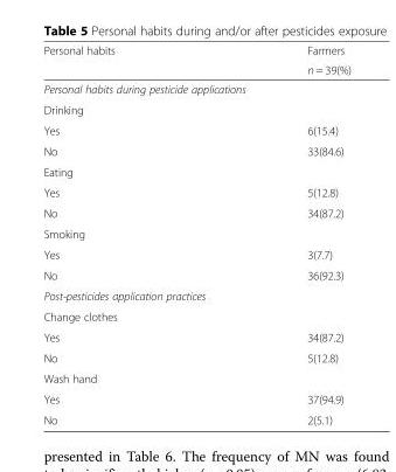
<table><thead><tr><td rowspan="2">Personal habits</td><td rowspan="2">Farmers n = 39(%)</td></tr><tr></tr></thead><tbody><tr><td colspan="2">Personal habits during pesticide applications</td></tr><tr><td colspan="2">Drinking</td></tr><tr><td>Yes</td><td>6(15.4)</td></tr><tr><td>No</td><td>33(84.6)</td></tr><tr><td colspan="2">Eating</td></tr><tr><td>Yes</td><td>5(12.8)</td></tr><tr><td>No</td><td>34(87.2)</td></tr><tr><td colspan="2">Smoking</td></tr><tr><td>Yes</td><td>3(7.7)</td></tr><tr><td>No</td><td>36(92.3)</td></tr><tr><td colspan="2">Post-pesticides application practices</td></tr><tr><td colspan="2">Change clothes</td></tr><tr><td>Yes</td><td>34(87.2)</td></tr><tr><td>No</td><td>5(12.8)</td></tr><tr><td colspan="2">Wash hand</td></tr><tr><td>Yes</td><td>37(94.9)</td></tr><tr><td>No</td><td>2(5.1)</td></tr></tbody></table>